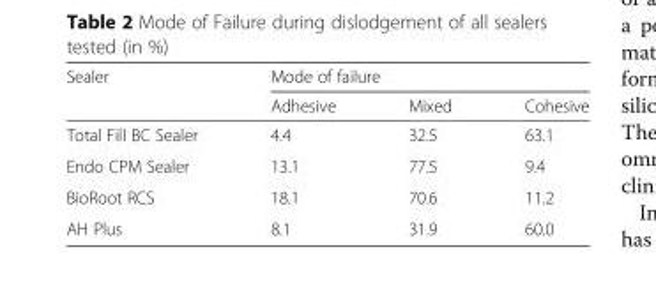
<table><thead><tr><td rowspan="2">Sealer</td><td colspan="3">Mode of failure</td></tr><tr><td>Adhesive</td><td>Mixed</td><td>Cohesive</td></tr></thead><tbody><tr><td>Total Fill BC Sealer</td><td>4.4</td><td>32.5</td><td>63.1</td></tr><tr><td>Endo CPM Sealer</td><td>13.1</td><td>77.5</td><td>9.4</td></tr><tr><td>BioRoot RCS</td><td>18.1</td><td>70.6</td><td>11.2</td></tr><tr><td>AH Plus</td><td>8.1</td><td>31.9</td><td>60.0</td></tr></tbody></table>